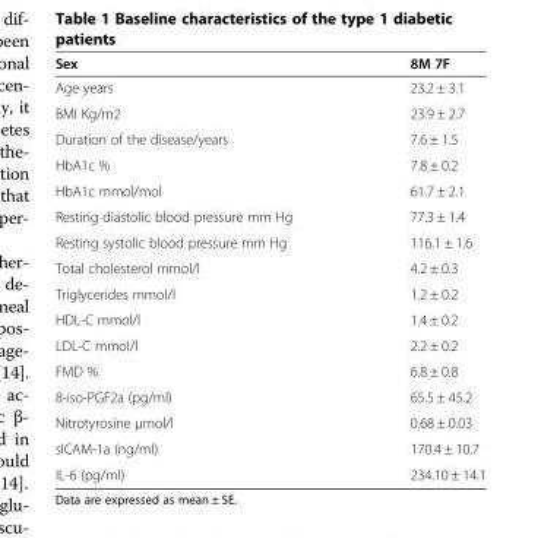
<table><thead><tr><td>Sex</td><td>8M 7F</td></tr></thead><tbody><tr><td>Age years</td><td>23.2 ± 3.1</td></tr><tr><td>BMI Kg/m2</td><td>23.9 ± 2.7</td></tr><tr><td>Duration of the disease/years</td><td>7.6 ± 1.5</td></tr><tr><td>HbA1c %</td><td>7.8 ± 0.2</td></tr><tr><td>HbA1c mmol/mol</td><td>61.7 ± 2.1</td></tr><tr><td>Resting diastolic blood pressure mm Hg</td><td>77.3 ± 1.4</td></tr><tr><td>Resting systolic blood pressure mm Hg</td><td>116.1 ± 1.6</td></tr><tr><td>Total cholesterol mmol/l</td><td>4.2 ± 0.3</td></tr><tr><td>Triglycerides mmol/l</td><td>1.2 ± 0.2</td></tr><tr><td>HDL-C mmol/l</td><td>1.4 ± 0.2</td></tr><tr><td>LDL-C mmol/l</td><td>2.2 ± 0.2</td></tr><tr><td>FMD %</td><td>6.8 ± 0.8</td></tr><tr><td>8-iso-PGF2a (pg/ml)</td><td>65.5 ± 45.2</td></tr><tr><td>Nitrotyrosine μmol/l</td><td>0.68 ± 0.03</td></tr><tr><td>sICAM-1a (ng/ml)</td><td>170.4 ± 10.7</td></tr><tr><td>IL-6 (pg/ml)</td><td>234.10 ± 14.1</td></tr></tbody></table>